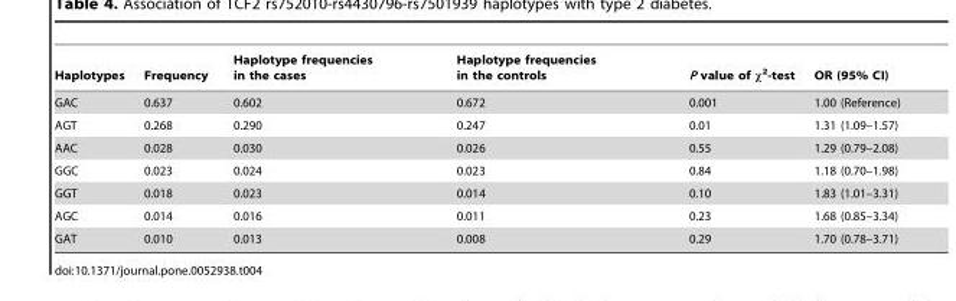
<table><thead><tr><td>Haplotypes</td><td>Frequency</td><td>Haplotype frequencies in the cases</td><td>Haplotype frequencies in the controls</td><td>P value of χ<sup>2</sup>-test</td><td>OR (95% CI)</td></tr></thead><tbody><tr><td>GAC</td><td>0.637</td><td>0.602</td><td>0.672</td><td>0.001</td><td>1.00 (Reference)</td></tr><tr><td>AGT</td><td>0.268</td><td>0.290</td><td>0.247</td><td>0.01</td><td>1.31 (1.09–1.57)</td></tr><tr><td>AAC</td><td>0.028</td><td>0.030</td><td>0.026</td><td>0.55</td><td>1.29 (0.79–2.08)</td></tr><tr><td>GGC</td><td>0.023</td><td>0.024</td><td>0.023</td><td>0.84</td><td>1.18 (0.70–1.98)</td></tr><tr><td>GGT</td><td>0.018</td><td>0.023</td><td>0.014</td><td>0.10</td><td>1.83 (1.01–3.31)</td></tr><tr><td>AGC</td><td>0.014</td><td>0.016</td><td>0.011</td><td>0.23</td><td>1.68 (0.85–3.34)</td></tr><tr><td>GAT</td><td>0.010</td><td>0.013</td><td>0.008</td><td>0.29</td><td>1.70 (0.78–3.71)</td></tr></tbody></table>